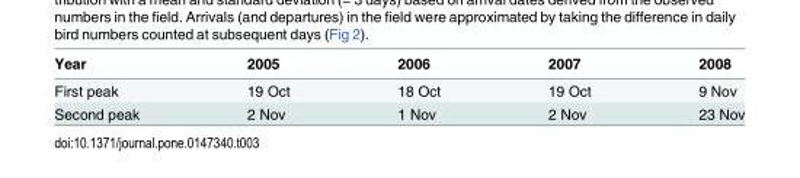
<table><thead><tr><td>Year</td><td>2005</td><td>2006</td><td>2007</td><td>2008</td></tr></thead><tbody><tr><td>First peak</td><td>19 Oct</td><td>18 Oct</td><td>19 Oct</td><td>9 Nov</td></tr><tr><td>Second peak</td><td>2 Nov</td><td>1 Nov</td><td>2 Nov</td><td>23 Nov</td></tr></tbody></table>